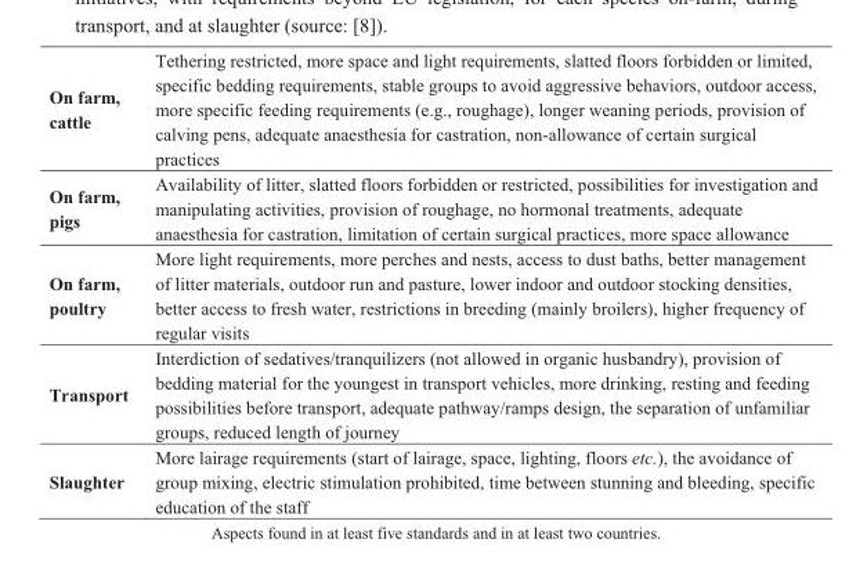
<table><tbody><tr><td>On farm, cattle</td><td>Tethering restricted, more space and light requirements, slatted floors forbidden or limited, specific bedding requirements, stable groups to avoid aggressive behaviors, outdoor access, more specific feeding requirements (e.g., roughage), longer weaning periods, provision of calving pens, adequate anaesthesia for castration, non-allowance of certain surgical practices</td></tr><tr><td>On farm, pigs</td><td>Availability of litter, slatted floors forbidden or restricted, possibilities for investigation and manipulating activities, provision of roughage, no hormonal treatments, adequate anaesthesia for castration, limitation of certain surgical practices, more space allowance</td></tr><tr><td>On farm, poultry</td><td>More light requirements, more perches and nests, access to dust baths, better management of litter materials, outdoor run and pasture, lower indoor and outdoor stocking densities, better access to fresh water, restrictions in breeding (mainly broilers), higher frequency of regular visits</td></tr><tr><td>Transport</td><td>Interdiction of sedatives/tranquilizers (not allowed in organic husbandry), provision of bedding material for the youngest in transport vehicles, more drinking, resting and feeding possibilities before transport, adequate pathway/ramps design, the separation of unfamiliar groups, reduced length of journey</td></tr><tr><td>Slaughter</td><td>More lairage requirements (start of lairage, space, lighting, floors etc.), the avoidance of group mixing, electric stimulation prohibited, time between stunning and bleeding, specific education of the staff</td></tr></tbody></table>